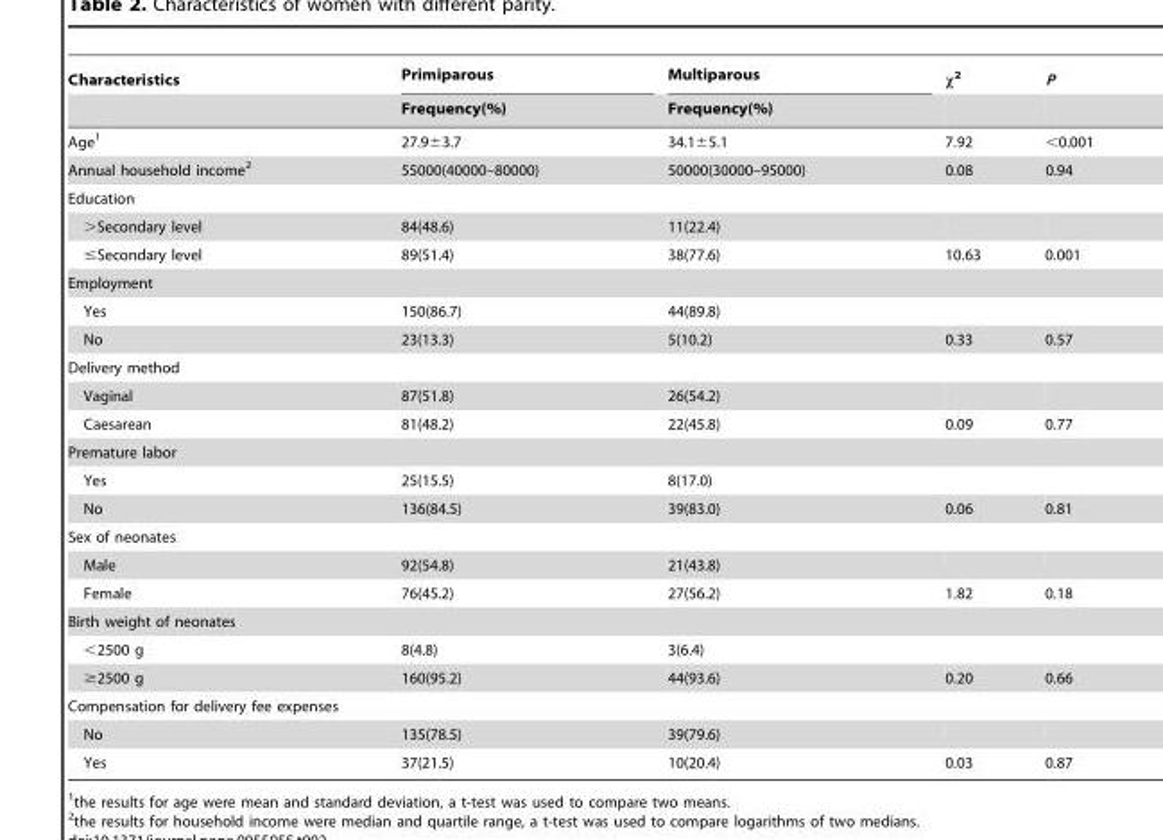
<table><thead><tr><td rowspan="2">Characteristics</td><td rowspan="2">Primiparous Frequency(%)</td><td rowspan="2">Multiparous Frequency(%)</td><td rowspan="2">x2</td><td rowspan="2">P</td></tr><tr></tr></thead><tbody><tr><td>Age<sup>1</sup></td><td>27.9±3.7</td><td>34.1±5.1</td><td>7.92</td><td>&lt;0.001</td></tr><tr><td>Annual household income<sup>2</sup></td><td>55000(40000–80000)</td><td>50000(30000–95000)</td><td>0.08</td><td>0.94</td></tr><tr><td colspan="5">Education</td></tr><tr><td>&gt;Secondary level</td><td>84(48.6)</td><td>11(22.4)</td><td></td><td></td></tr><tr><td>≤Secondary level</td><td>89(51.4)</td><td>38(77.6)</td><td>10.63</td><td>0.001</td></tr><tr><td colspan="5">Employment</td></tr><tr><td>Yes</td><td>150(86.7)</td><td>44(89.8)</td><td></td><td></td></tr><tr><td>No</td><td>23(13.3)</td><td>5(10.2)</td><td>0.33</td><td>0.57</td></tr><tr><td colspan="5">Delivery method</td></tr><tr><td>Vaginal</td><td>87(51.8)</td><td>26(54.2)</td><td></td><td></td></tr><tr><td>Caesarean</td><td>81(48.2)</td><td>22(45.8)</td><td>0.09</td><td>0.77</td></tr><tr><td colspan="5">Premature labor</td></tr><tr><td>Yes</td><td>25(15.5)</td><td>8(17.0)</td><td></td><td></td></tr><tr><td>No</td><td>136(84.5)</td><td>39(83.0)</td><td>0.06</td><td>0.81</td></tr><tr><td colspan="5">Sex of neonates</td></tr><tr><td>Male</td><td>92(54.8)</td><td>21(43.8)</td><td></td><td></td></tr><tr><td>Female</td><td>76(45.2)</td><td>27(56.2)</td><td>1.82</td><td>0.18</td></tr><tr><td colspan="5">Birth weight of neonates</td></tr><tr><td>&lt;2500 g</td><td>8(4.8)</td><td>3(6.4)</td><td></td><td></td></tr><tr><td>≥2500 g</td><td>160(95.2)</td><td>44(93.6)</td><td>0.20</td><td>0.66</td></tr><tr><td colspan="5">Compensation for delivery fee expenses</td></tr><tr><td>No</td><td>135(78.5)</td><td>39(79.6)</td><td></td><td></td></tr><tr><td>Yes</td><td>37(21.5)</td><td>10(20.4)</td><td>0.03</td><td>0.87</td></tr></tbody></table>